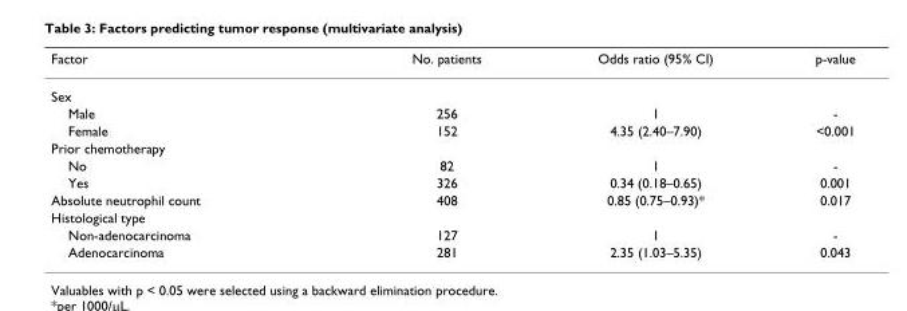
<table><thead><tr><td>Factor</td><td>No. patients</td><td>Odds ratio (95% CI)</td><td>p-value</td></tr></thead><tbody><tr><td colspan="4">Sex</td></tr><tr><td>Male</td><td>256</td><td>1</td><td>-</td></tr><tr><td>Female</td><td>152</td><td>4.35 (2.40–7.90)</td><td>&lt;0.001</td></tr><tr><td colspan="4">Prior chemotherapy</td></tr><tr><td>No</td><td>82</td><td>1</td><td>-</td></tr><tr><td>Yes</td><td>326</td><td>0.34 (0.18–0.65)</td><td>0.001</td></tr><tr><td>Absolute neutrophil count</td><td>408</td><td>0.85 (0.75–0.93)*</td><td>0.017</td></tr><tr><td colspan="4">Histological type</td></tr><tr><td>Non-adenocarcinoma</td><td>127</td><td>1</td><td>-</td></tr><tr><td>Adenocarcinoma</td><td>281</td><td>2.35 (1.03–5.35)</td><td>0.043</td></tr></tbody></table>